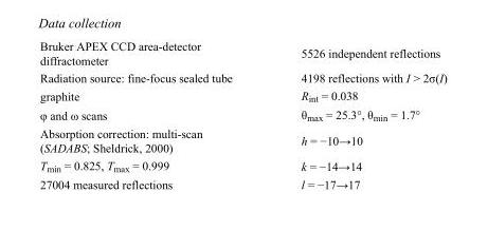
<table><tbody><tr><td>Bruker APEX CCD area-detector diffractometer</td><td>5526 independent reflections</td></tr><tr><td>Radiation source: fine-focus sealed tube</td><td>4198 reflections with I &gt; 2σ(I)</td></tr><tr><td>graphite</td><td>R<sub>int</sub> = 0.038</td></tr><tr><td>φ and ω scans</td><td>θ<sub>max</sub> = 25.3°, θ<sub>min</sub> = 1.7°</td></tr><tr><td>Absorption correction: multi-scan (SADABS; Sheldrick, 2000)</td><td>h = −10→10</td></tr><tr><td>T<sub>min</sub> = 0.825, T<sub>max</sub> = 0.999</td><td>k = −14→14</td></tr><tr><td>27004 measured reflections</td><td>l = −17→17</td></tr></tbody></table>